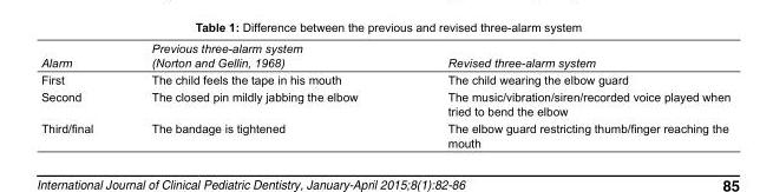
<table><tbody><tr><td>Alarm</td><td>Previous three-alarm system (Norton and Gellin, 1968)</td><td>Revised three-alarm system</td></tr><tr><td>First</td><td>The child feels the tape in his mouth</td><td>The child wearing the elbow guard</td></tr><tr><td>Second</td><td>The closed pin mildly jabbing the elbow</td><td>The music/vibration/siren/recorded voice played when tried to bend the elbow</td></tr><tr><td>Third/final</td><td>The bandage is tightened</td><td>The elbow guard restricting thumb/finger reaching the mouth</td></tr></tbody></table>